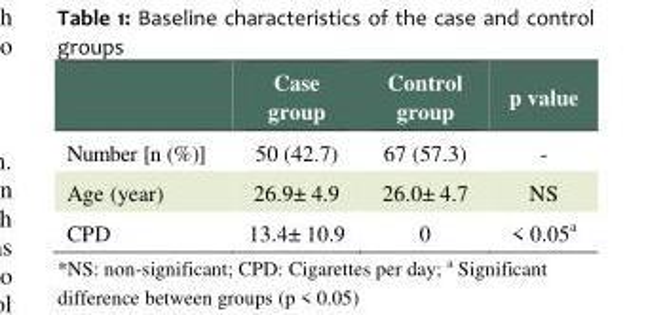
<table><thead><tr><td></td><td>Case group</td><td>Control group</td><td>p value</td></tr></thead><tbody><tr><td>Number [n (%)]</td><td>50 (42.7)</td><td>67 (57.3)</td><td>-</td></tr><tr><td>Age (year)</td><td>26.9± 4.9</td><td>26.0± 4.7</td><td>NS</td></tr><tr><td>CPD</td><td>13.4± 10.9</td><td>0</td><td>&lt; 0.05<sup>a</sup></td></tr></tbody></table>